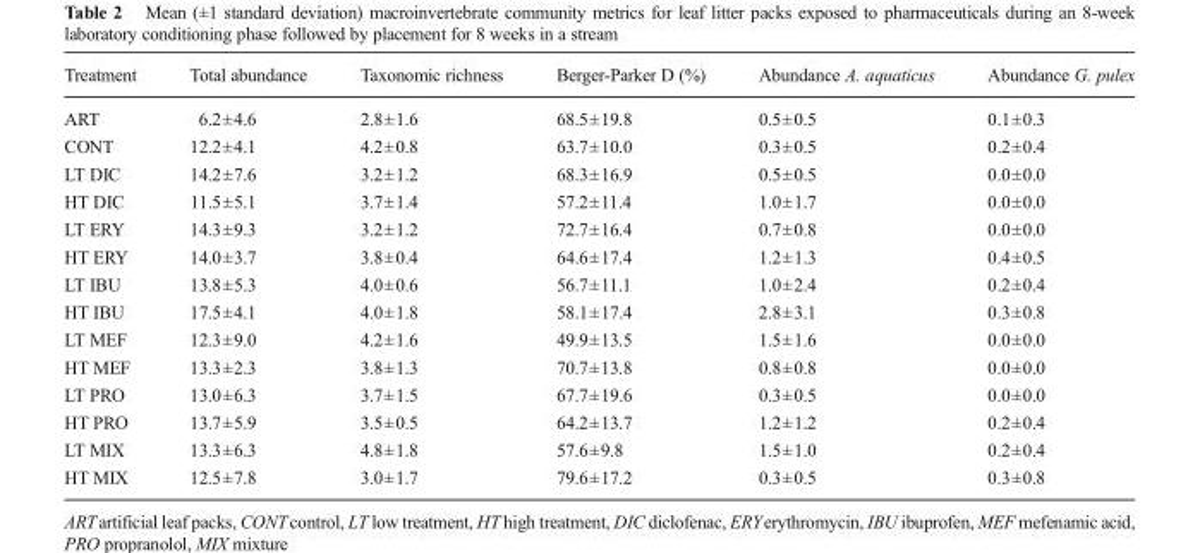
<table><thead><tr><td>Treatment</td><td>Total abundance</td><td>Taxonomic richness</td><td>Berger-Parker D (%)</td><td>Abundance A. aquaticus</td><td>Abundance G. pulex</td></tr></thead><tbody><tr><td>ART</td><td>6.2±4.6</td><td>2.8±1.6</td><td>68.5±19.8</td><td>0.5±0.5</td><td>0.1±0.3</td></tr><tr><td>CONT</td><td>12.2±4.1</td><td>4.2±0.8</td><td>63.7±10.0</td><td>0.3±0.5</td><td>0.2±0.4</td></tr><tr><td>LT DIC</td><td>14.2±7.6</td><td>3.2±1.2</td><td>68.3±16.9</td><td>0.5±0.5</td><td>0.0±0.0</td></tr><tr><td>HT DIC</td><td>11.5±5.1</td><td>3.7±1.4</td><td>57.2±11.4</td><td>1.0±1.7</td><td>0.0±0.0</td></tr><tr><td>LT ERY</td><td>14.3±9.3</td><td>3.2±1.2</td><td>72.7±16.4</td><td>0.7±0.8</td><td>0.0±0.0</td></tr><tr><td>HT ERY</td><td>14.0±3.7</td><td>3.8±0.4</td><td>64.6±17.4</td><td>1.2±1.3</td><td>0.4±0.5</td></tr><tr><td>LT IBU</td><td>13.8±5.3</td><td>4.0±0.6</td><td>56.7±11.1</td><td>1.0±2.4</td><td>0.2±0.4</td></tr><tr><td>HT IBU</td><td>17.5±4.1</td><td>4.0±1.8</td><td>58.1±17.4</td><td>2.8±3.1</td><td>0.3±0.8</td></tr><tr><td>LT MEF</td><td>12.3±9.0</td><td>4.2±1.6</td><td>49.9±13.5</td><td>1.5±1.6</td><td>0.0±0.0</td></tr><tr><td>HT MEF</td><td>13.3±2.3</td><td>3.8±1.3</td><td>70.7±13.8</td><td>0.8±0.8</td><td>0.0±0.0</td></tr><tr><td>LT PRO</td><td>13.0±6.3</td><td>3.7±1.5</td><td>67.7±19.6</td><td>0.3±0.5</td><td>0.0±0.0</td></tr><tr><td>HT PRO</td><td>13.7±5.9</td><td>3.5±0.5</td><td>64.2±13.7</td><td>1.2±1.2</td><td>0.2±0.4</td></tr><tr><td>LT MIX</td><td>13.3±6.3</td><td>4.8±1.8</td><td>57.6±9.8</td><td>1.5±1.0</td><td>0.2±0.4</td></tr><tr><td>HT MIX</td><td>12.5±7.8</td><td>3.0±1.7</td><td>79.6±17.2</td><td>0.3±0.5</td><td>0.3±0.8</td></tr></tbody></table>